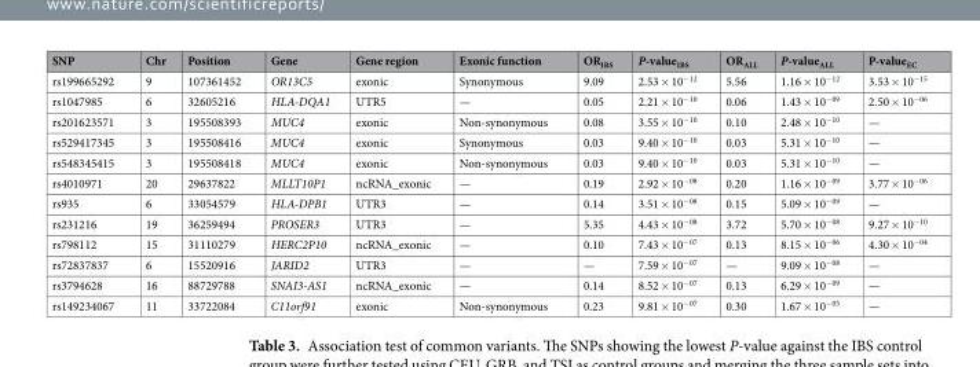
<table><thead><tr><td>SNP</td><td>Chr</td><td>Position</td><td>Gene</td><td>Gene region</td><td>Exonic function</td><td>OR<sub>IBS</sub></td><td>P-value<sub>IBS</sub></td><td>OR<sub>ALL</sub></td><td>P-value<sub>ALL</sub></td><td>P-value<sub>EC</sub></td></tr></thead><tbody><tr><td>rs199665292</td><td>9</td><td>107361452</td><td>OR13C5</td><td>exonic</td><td>Synonymous</td><td>9.09</td><td>2.53 × 10<sup>−12</sup></td><td>5.56</td><td>1.16 × 10<sup>−12</sup></td><td>3.53 × 10<sup>−15</sup></td></tr><tr><td>rs1047985</td><td>6</td><td>32605216</td><td>HLA-DQA1</td><td>UTR5</td><td>—</td><td>0.05</td><td>2.21 × 10<sup>−10</sup></td><td>0.06</td><td>1.43 × 10<sup>−09</sup></td><td>2.50 × 10<sup>−06</sup></td></tr><tr><td>rs201623571</td><td>3</td><td>195508393</td><td>MUC4</td><td>exonic</td><td>Non-synonymous</td><td>0.08</td><td>3.55 × 10<sup>−10</sup></td><td>0.10</td><td>2.48 × 10<sup>−10</sup></td><td>—</td></tr><tr><td>rs529417345</td><td>3</td><td>195508416</td><td>MUC4</td><td>exonic</td><td>Synonymous</td><td>0.03</td><td>9.40 × 10<sup>−10</sup></td><td>0.03</td><td>5.31 × 10<sup>−10</sup></td><td>—</td></tr><tr><td>rs548345415</td><td>3</td><td>195508418</td><td>MUC4</td><td>exonic</td><td>Non-synonymous</td><td>0.03</td><td>9.40 × 10<sup>−10</sup></td><td>0.03</td><td>5.31 × 10<sup>−10</sup></td><td>—</td></tr><tr><td>rs4010971</td><td>20</td><td>29637822</td><td>MLLT10P1</td><td>ncRNA_exonic</td><td>—</td><td>0.19</td><td>2.92 × 10<sup>−08</sup></td><td>0.20</td><td>1.16 × 10<sup>−09</sup></td><td>3.77 × 10<sup>−06</sup></td></tr><tr><td>rs935</td><td>6</td><td>33054579</td><td>HLA-DPB1</td><td>UTR3</td><td>—</td><td>0.14</td><td>3.51 × 10<sup>−08</sup></td><td>0.15</td><td>5.09 × 10<sup>−09</sup></td><td>—</td></tr><tr><td>rs231216</td><td>19</td><td>36259494</td><td>PROSER3</td><td>UTR3</td><td>—</td><td>5.35</td><td>4.43 × 10<sup>−08</sup></td><td>3.72</td><td>5.70 × 10<sup>−08</sup></td><td>9.27 × 10<sup>−10</sup></td></tr><tr><td>rs798112</td><td>15</td><td>31110279</td><td>HERC2P10</td><td>ncRNA_exonic</td><td>—</td><td>0.10</td><td>7.43 × 10<sup>−07</sup></td><td>0.13</td><td>8.15 × 10<sup>−06</sup></td><td>4.30 × 10<sup>−04</sup></td></tr><tr><td>rs72837837</td><td>6</td><td>15520916</td><td>JARID2</td><td>UTR3</td><td>—</td><td>—</td><td>7.59 × 10<sup>−07</sup></td><td>—</td><td>9.09 × 10<sup>−08</sup></td><td>—</td></tr><tr><td>rs3794628</td><td>16</td><td>88729788</td><td>SNAI3-AS1</td><td>ncRNA_exonic</td><td>—</td><td>0.14</td><td>8.52 × 10<sup>−07</sup></td><td>0.13</td><td>6.29 × 10<sup>−09</sup></td><td>—</td></tr><tr><td>rs149234067</td><td>11</td><td>33722084</td><td>C11orf91</td><td>exonic</td><td>Non-synonymous</td><td>0.23</td><td>9.81 × 10<sup>−07</sup></td><td>0.30</td><td>1.67 × 10<sup>−05</sup></td><td>—</td></tr></tbody></table>